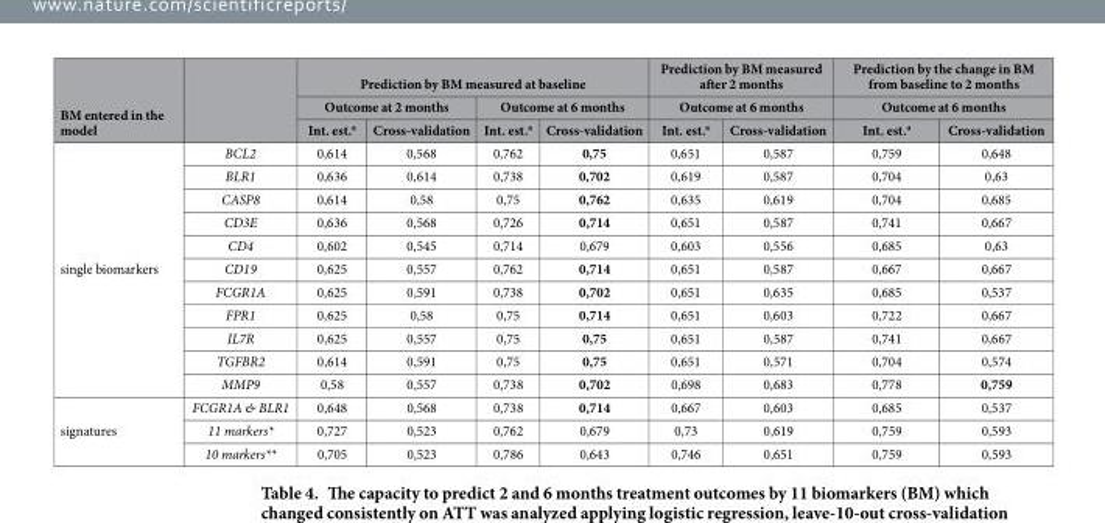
<table><thead><tr><td rowspan="3">BM entered in the model</td><td rowspan="3"></td><td colspan="4">Prediction by BM measured at baseline</td><td rowspan="2" colspan="2">Prediction by BM measured after 2 months Outcome at 6 months</td><td rowspan="2" colspan="2">Prediction by the change in BM from baseline to 2 months Outcome at 6 months</td></tr><tr><td colspan="2">Outcome at 2 months</td><td colspan="2">Outcome at 6 months</td></tr><tr><td>Int. est.<sup>a</sup></td><td>Cross-validation</td><td>Int. est.<sup>a</sup></td><td>Cross-validation</td><td>Int. est.<sup>a</sup></td><td>Cross-validation</td><td>Int. est.<sup>a</sup></td><td>Cross-validation</td></tr></thead><tbody><tr><td rowspan="11">single biomarkers</td><td>BCL2</td><td>0,614</td><td>0,568</td><td>0,762</td><td>0,75</td><td>0,651</td><td>0,587</td><td>0,759</td><td>0,648</td></tr><tr><td>BLR1</td><td>0,636</td><td>0,614</td><td>0,738</td><td>0,702</td><td>0,619</td><td>0,587</td><td>0,704</td><td>0,63</td></tr><tr><td>CASP8</td><td>0,614</td><td>0,58</td><td>0,75</td><td>0,762</td><td>0,635</td><td>0,619</td><td>0,704</td><td>0,685</td></tr><tr><td>CD3E</td><td>0,636</td><td>0,568</td><td>0,726</td><td>0,714</td><td>0,651</td><td>0,587</td><td>0,741</td><td>0,667</td></tr><tr><td>CD4</td><td>0,602</td><td>0,545</td><td>0,714</td><td>0,679</td><td>0,603</td><td>0,556</td><td>0,685</td><td>0,63</td></tr><tr><td>CD19</td><td>0,625</td><td>0,557</td><td>0,762</td><td>0,714</td><td>0,651</td><td>0,587</td><td>0,667</td><td>0,667</td></tr><tr><td>FCGR1A</td><td>0,625</td><td>0,591</td><td>0,738</td><td>0,702</td><td>0,651</td><td>0,635</td><td>0,685</td><td>0,537</td></tr><tr><td>FPR1</td><td>0,625</td><td>0,58</td><td>0,75</td><td>0,714</td><td>0,651</td><td>0,603</td><td>0,722</td><td>0,667</td></tr><tr><td>IL7R</td><td>0,625</td><td>0,557</td><td>0,75</td><td>0,75</td><td>0,651</td><td>0,587</td><td>0,741</td><td>0,667</td></tr><tr><td>TGFBR2</td><td>0,614</td><td>0,591</td><td>0,75</td><td>0,75</td><td>0,651</td><td>0,571</td><td>0,704</td><td>0,574</td></tr><tr><td>MMP9</td><td>0,58</td><td>0,557</td><td>0,738</td><td>0,702</td><td>0,698</td><td>0,683</td><td>0,778</td><td>0,759</td></tr><tr><td rowspan="3">signatures</td><td>FCGR1A &amp; BLR1</td><td>0,648</td><td>0,568</td><td>0,738</td><td>0,714</td><td>0,667</td><td>0,603</td><td>0,685</td><td>0,537</td></tr><tr><td>11 markers*</td><td>0,727</td><td>0,523</td><td>0,762</td><td>0,679</td><td>0,73</td><td>0,619</td><td>0,759</td><td>0,593</td></tr><tr><td>10 markers**</td><td>0,705</td><td>0,523</td><td>0,786</td><td>0,643</td><td>0,746</td><td>0,651</td><td>0,759</td><td>0,593</td></tr></tbody></table>